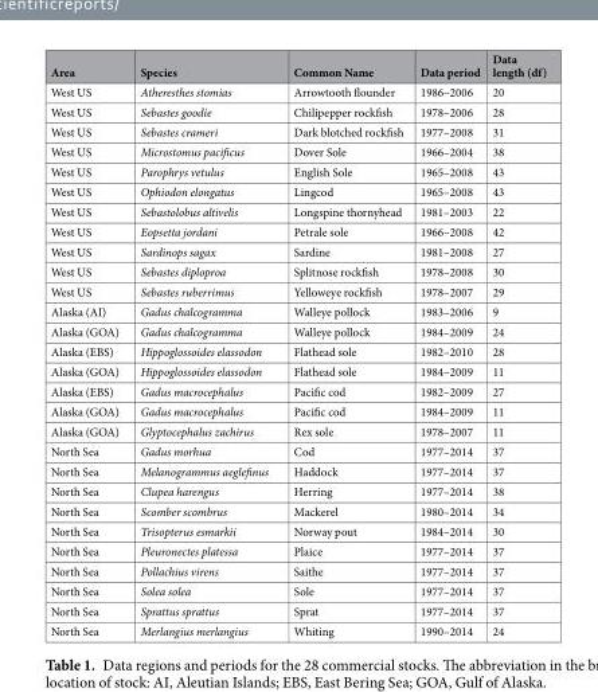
<table><thead><tr><td>Area</td><td>Species</td><td>Common Name</td><td>Data period</td><td>Data length (df)</td></tr></thead><tbody><tr><td>West US</td><td>Atheresthes stomias</td><td>Arrowtooth flounder</td><td>1986–2006</td><td>20</td></tr><tr><td>West US</td><td>Sebastes goodie</td><td>Chilipepper rockfish</td><td>1978–2006</td><td>28</td></tr><tr><td>West US</td><td>Sebastes crameri</td><td>Dark blotched rockfish</td><td>1977–2008</td><td>31</td></tr><tr><td>West US</td><td>Microstomus pacificus</td><td>Dover Sole</td><td>1966–2004</td><td>38</td></tr><tr><td>West US</td><td>Parophrys vetulus</td><td>English Sole</td><td>1965–2008</td><td>43</td></tr><tr><td>West US</td><td>Ophiodon elongatus</td><td>Lingcod</td><td>1965–2008</td><td>43</td></tr><tr><td>West US</td><td>Sebastolobus altivelis</td><td>Longspine thornyhead</td><td>1981–2003</td><td>22</td></tr><tr><td>West US</td><td>Eopsetta jordani</td><td>Petrale sole</td><td>1966–2008</td><td>42</td></tr><tr><td>West US</td><td>Sardinops sagax</td><td>Sardine</td><td>1981–2008</td><td>27</td></tr><tr><td>West US</td><td>Sebastes diploproa</td><td>Splitnose rockfish</td><td>1978–2008</td><td>30</td></tr><tr><td>West US</td><td>Sebastes ruberrimus</td><td>Yelloweye rockfish</td><td>1978–2007</td><td>29</td></tr><tr><td>Alaska (AI)</td><td>Gadus chalcogramma</td><td>Walleye pollock</td><td>1983–2006</td><td>9</td></tr><tr><td>Alaska (GOA)</td><td>Gadus chalcogramma</td><td>Walleye pollock</td><td>1984–2009</td><td>24</td></tr><tr><td>Alaska (EBS)</td><td>Hippoglossoides elassodon</td><td>Flathead sole</td><td>1982–2010</td><td>28</td></tr><tr><td>Alaska (GOA)</td><td>Hippoglossoides elassodon</td><td>Flathead sole</td><td>1984–2009</td><td>11</td></tr><tr><td>Alaska (EBS)</td><td>Gadus macrocephalus</td><td>Pacific cod</td><td>1982–2009</td><td>27</td></tr><tr><td>Alaska (GOA)</td><td>Gadus macrocephalus</td><td>Pacific cod</td><td>1984–2009</td><td>11</td></tr><tr><td>Alaska (GOA)</td><td>Glyptocephalus zachirus</td><td>Rex sole</td><td>1978–2007</td><td>11</td></tr><tr><td>North Sea</td><td>Gadus morhua</td><td>Cod</td><td>1977–2014</td><td>37</td></tr><tr><td>North Sea</td><td>Melanogrammus aeglefinus</td><td>Haddock</td><td>1977–2014</td><td>37</td></tr><tr><td>North Sea</td><td>Clupea harengus</td><td>Herring</td><td>1977–2014</td><td>38</td></tr><tr><td>North Sea</td><td>Scomber scombrus</td><td>Mackerel</td><td>1980–2014</td><td>34</td></tr><tr><td>North Sea</td><td>Trisopterus esmarkii</td><td>Norway pout</td><td>1984–2014</td><td>30</td></tr><tr><td>North Sea</td><td>Pleuronectes platessa</td><td>Plaice</td><td>1977–2014</td><td>37</td></tr><tr><td>North Sea</td><td>Pollachius virens</td><td>Saithe</td><td>1977–2014</td><td>37</td></tr><tr><td>North Sea</td><td>Solea solea</td><td>Sole</td><td>1977–2014</td><td>37</td></tr><tr><td>North Sea</td><td>Sprattus sprattus</td><td>Sprat</td><td>1977–2014</td><td>37</td></tr><tr><td>North Sea</td><td>Merlangius merlangius</td><td>Whiting</td><td>1990–2014</td><td>24</td></tr></tbody></table>